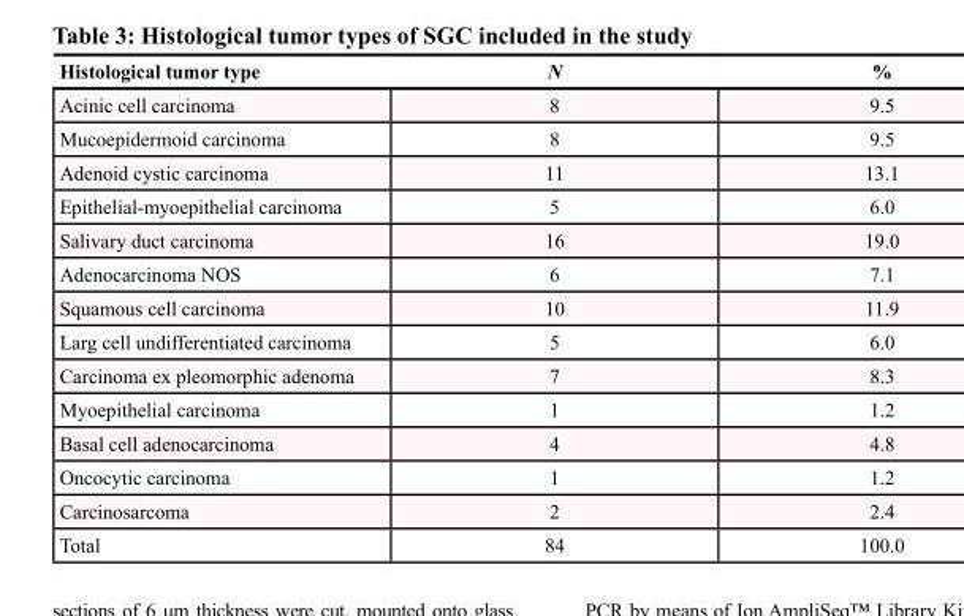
<table><thead><tr><td>Histological tumor type</td><td>N</td><td>%</td></tr></thead><tbody><tr><td>Acinic cell carcinoma</td><td>8</td><td>9.5</td></tr><tr><td>Mucoepidermoid carcinoma</td><td>8</td><td>9.5</td></tr><tr><td>Adenoid cystic carcinoma</td><td>11</td><td>13.1</td></tr><tr><td>Epithelial-myoepithelial carcinoma</td><td>5</td><td>6.0</td></tr><tr><td>Salivary duct carcinoma</td><td>16</td><td>19.0</td></tr><tr><td>Adenocarcinoma NOS</td><td>6</td><td>7.1</td></tr><tr><td>Squamous cell carcinoma</td><td>10</td><td>11.9</td></tr><tr><td>Larg cell undifferentiated carcinoma</td><td>5</td><td>6.0</td></tr><tr><td>Carcinoma ex pleomorphic adenoma</td><td>7</td><td>8.3</td></tr><tr><td>Myoepithelial carcinoma</td><td>1</td><td>1.2</td></tr><tr><td>Basal cell adenocarcinoma</td><td>4</td><td>4.8</td></tr><tr><td>Oncocytic carcinoma</td><td>1</td><td>1.2</td></tr><tr><td>Carcinosarcoma</td><td>2</td><td>2.4</td></tr><tr><td>Total</td><td>84</td><td>100.0</td></tr></tbody></table>